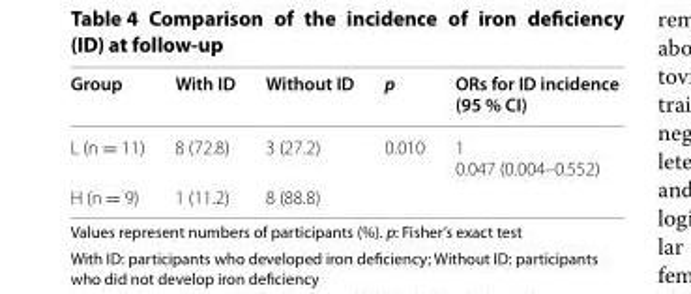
<table><thead><tr><td>Group</td><td>With ID</td><td>Without ID</td><td>p</td><td>ORs for ID incidence (95 % CI)</td></tr></thead><tbody><tr><td>L (n = 11)</td><td>8 (72.8)</td><td>3 (27.2)</td><td>0.010</td><td>1 0.047 (0.004–0.552)</td></tr><tr><td>H (n = 9)</td><td>1 (11.2)</td><td>8 (88.8)</td><td></td><td></td></tr></tbody></table>